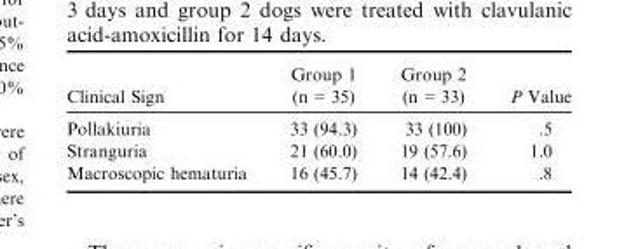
<table><thead><tr><td>Clinical Sign</td><td>Group 1 (n = 35)</td><td>Group 2 (n = 33)</td><td>P Value</td></tr></thead><tbody><tr><td>Pollakiuria</td><td>33 (94.3)</td><td>33 (100)</td><td>.5</td></tr><tr><td>Stranguria</td><td>21 (60.0)</td><td>19 (57.6)</td><td>1.0</td></tr><tr><td>Macroscopic hematuria</td><td>16 (45.7)</td><td>14 (42.4)</td><td>.8</td></tr></tbody></table>